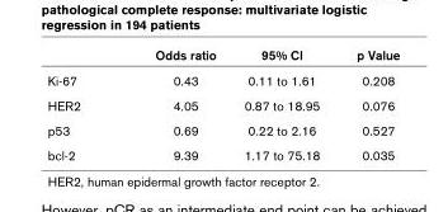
<table><thead><tr><td></td><td>Odds ratio</td><td>95% CI</td><td>p Value</td></tr></thead><tbody><tr><td>Ki-67</td><td>0.43</td><td>0.11 to 1.61</td><td>0.208</td></tr><tr><td>HER2</td><td>4.05</td><td>0.87 to 18.95</td><td>0.076</td></tr><tr><td>p53</td><td>0.69</td><td>0.22 to 2.16</td><td>0.527</td></tr><tr><td>bcl-2</td><td>9.39</td><td>1.17 to 75.18</td><td>0.035</td></tr></tbody></table>